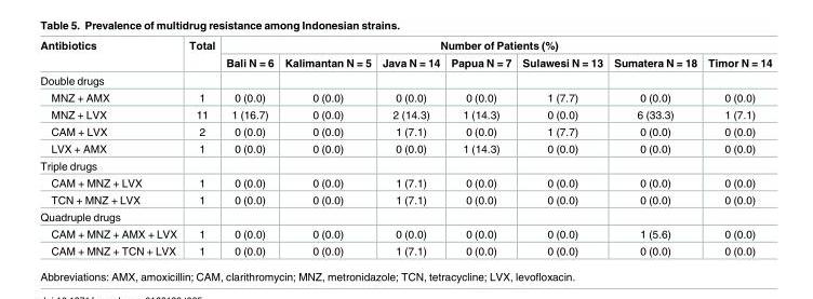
<table><thead><tr><td rowspan="2">Antibiotics</td><td rowspan="2">Total</td><td colspan="7">Number of Patients (%)</td></tr><tr><td>Bali N = 6</td><td>Kalimantan N = 5</td><td>Java N = 14</td><td>Papua N = 7</td><td>Sulawesi N = 13</td><td>Sumatera N = 18</td><td>Timor N = 14</td></tr></thead><tbody><tr><td colspan="9">Double drugs</td></tr><tr><td>MNZ + AMX</td><td>1</td><td>0 (0.0)</td><td>0 (0.0)</td><td>0 (0.0)</td><td>0 (0.0)</td><td>1 (7.7)</td><td>0 (0.0)</td><td>0 (0.0)</td></tr><tr><td>MNZ + LVX</td><td>11</td><td>1 (16.7)</td><td>0 (0.0)</td><td>2 (14.3)</td><td>1 (14.3)</td><td>0 (0.0)</td><td>6 (33.3)</td><td>1 (7.1)</td></tr><tr><td>CAM + LVX</td><td>2</td><td>0 (0.0)</td><td>0 (0.0)</td><td>1 (7.1)</td><td>0 (0.0)</td><td>1 (7.7)</td><td>0 (0.0)</td><td>0 (0.0)</td></tr><tr><td>LVX + AMX</td><td>1</td><td>0 (0.0)</td><td>0 (0.0)</td><td>0 (0.0)</td><td>1 (14.3)</td><td>0 (0.0)</td><td>0 (0.0)</td><td>0 (0.0)</td></tr><tr><td colspan="9">Triple drugs</td></tr><tr><td>CAM + MNZ + LVX</td><td>1</td><td>0 (0.0)</td><td>0 (0.0)</td><td>1 (7.1)</td><td>0 (0.0)</td><td>0 (0.0)</td><td>0 (0.0)</td><td>0 (0.0)</td></tr><tr><td>TCN + MNZ + LVX</td><td>1</td><td>0 (0.0)</td><td>0 (0.0)</td><td>1 (7.1)</td><td>0 (0.0)</td><td>0 (0.0)</td><td>0 (0.0)</td><td>0 (0.0)</td></tr><tr><td colspan="9">Quadruple drugs</td></tr><tr><td>CAM + MNZ + AMX + LVX</td><td>1</td><td>0 (0.0)</td><td>0 (0.0)</td><td>0 (0.0)</td><td>0 (0.0)</td><td>0 (0.0)</td><td>1 (5.6)</td><td>0 (0.0)</td></tr><tr><td>CAM + MNZ + TCN + LVX</td><td>1</td><td>0 (0.0)</td><td>0 (0.0)</td><td>1 (7.1)</td><td>0 (0.0)</td><td>0 (0.0)</td><td>0 (0.0)</td><td>0 (0.0)</td></tr></tbody></table>